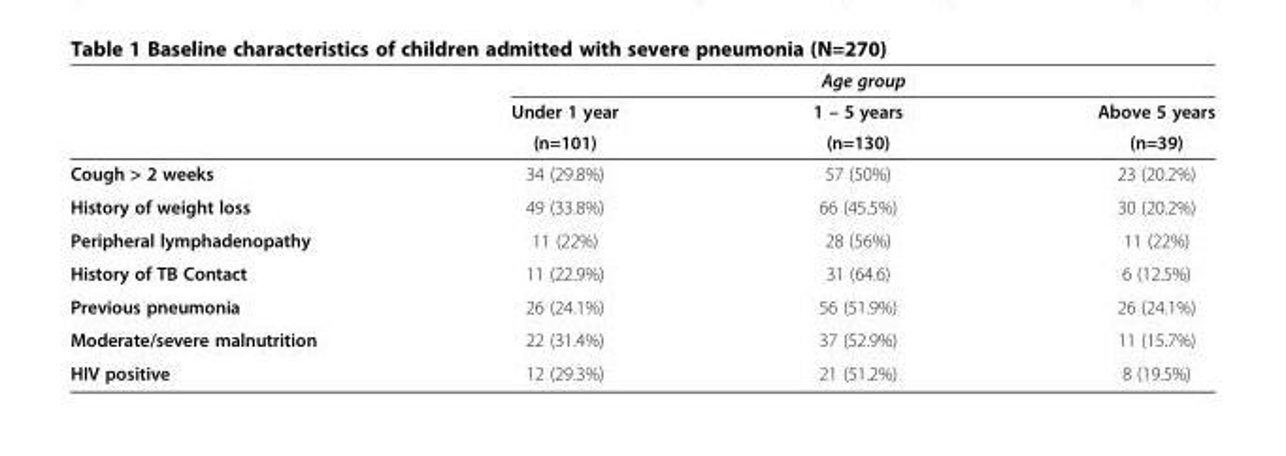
<table><thead><tr><td rowspan="3"></td><td colspan="3">Age group</td></tr><tr><td rowspan="2">Under 1 year (n=101)</td><td rowspan="2">1 – 5 years (n=130)</td><td rowspan="2">Above 5 years (n=39)</td></tr><tr></tr></thead><tbody><tr><td>Cough &gt; 2 weeks</td><td>34 (29.8%)</td><td>57 (50%)</td><td>23 (20.2%)</td></tr><tr><td>History of weight loss</td><td>49 (33.8%)</td><td>66 (45.5%)</td><td>30 (20.2%)</td></tr><tr><td>Peripheral lymphadenopathy</td><td>11 (22%)</td><td>28 (56%)</td><td>11 (22%)</td></tr><tr><td>History of TB Contact</td><td>11 (22.9%)</td><td>31 (64.6)</td><td>6 (12.5%)</td></tr><tr><td>Previous pneumonia</td><td>26 (24.1%)</td><td>56 (51.9%)</td><td>26 (24.1%)</td></tr><tr><td>Moderate/severe malnutrition</td><td>22 (31.4%)</td><td>37 (52.9%)</td><td>11 (15.7%)</td></tr><tr><td>HIV positive</td><td>12 (29.3%)</td><td>21 (51.2%)</td><td>8 (19.5%)</td></tr></tbody></table>